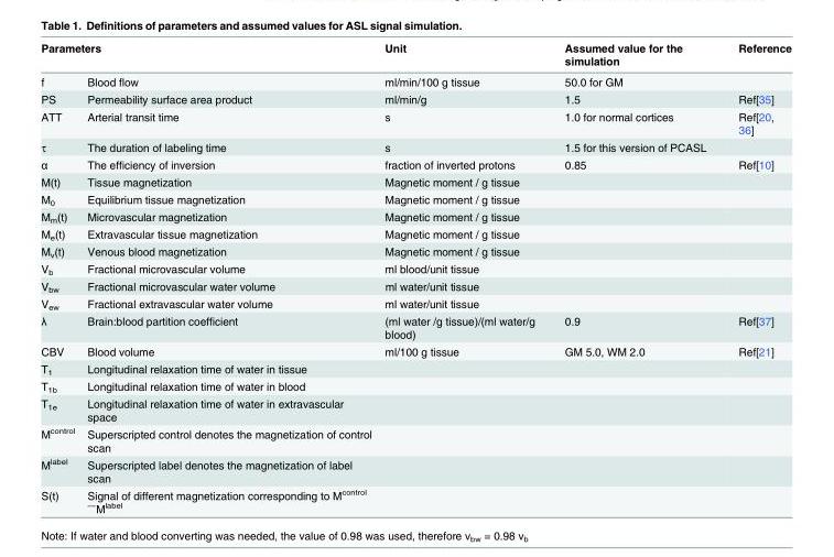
<table><thead><tr><td colspan="2">Parameters</td><td rowspan="2">Unit ml/min/100 g tissue</td><td rowspan="2">Assumed value for the simulation 50.0 for GM</td><td rowspan="2">Reference</td></tr><tr><td>f</td><td>Blood flow</td></tr></thead><tbody><tr><td>PS</td><td>Permeability surface area product</td><td>ml/min/g</td><td>1.5</td><td>Ref[35]</td></tr><tr><td>ATT</td><td>Arterial transit time</td><td>s</td><td>1.0 for normal cortices</td><td>Ref[20, 36]</td></tr><tr><td>τ</td><td>The duration of labeling time</td><td>s</td><td>1.5 for this version of PCASL</td><td></td></tr><tr><td>α</td><td>The efficiency of inversion</td><td>fraction of inverted protons</td><td>0.85</td><td>Ref[10]</td></tr><tr><td>M(t)</td><td>Tissue magnetization</td><td>Magnetic moment / g tissue</td><td></td><td></td></tr><tr><td>M<sub>0</sub></td><td>Equilibrium tissue magnetization</td><td>Magnetic moment / g tissue</td><td></td><td></td></tr><tr><td>M<sub>m</sub>(t)</td><td>Microvascular magnetization</td><td>Magnetic moment / g tissue</td><td></td><td></td></tr><tr><td>M<sub>e</sub>(t)</td><td>Extravascular tissue magnetization</td><td>Magnetic moment / g tissue</td><td></td><td></td></tr><tr><td>M<sub>v</sub>(t)</td><td>Venous blood magnetization</td><td>Magnetic moment / g tissue</td><td></td><td></td></tr><tr><td>V<sub>b</sub></td><td>Fractional microvascular volume</td><td>ml blood/unit tissue</td><td></td><td></td></tr><tr><td>V<sub>bw</sub></td><td>Fractional microvascular water volume</td><td>ml water/unit tissue</td><td></td><td></td></tr><tr><td>V<sub>ew</sub></td><td>Fractional extravascular water volume</td><td>ml water/unit tissue</td><td></td><td></td></tr><tr><td>λ</td><td>Brain:blood partition coefficient</td><td>(ml water /g tissue)/(ml water/g blood)</td><td>0.9</td><td>Ref[37]</td></tr><tr><td>CBV</td><td>Blood volume</td><td>ml/100 g tissue</td><td>GM 5.0, WM 2.0</td><td>Ref[21]</td></tr><tr><td>T<sub>1</sub></td><td>Longitudinal relaxation time of water in tissue</td><td></td><td></td><td></td></tr><tr><td>T<sub>1b</sub></td><td>Longitudinal relaxation time of water in blood</td><td></td><td></td><td></td></tr><tr><td>T<sub>1e</sub></td><td>Longitudinal relaxation time of water in extravascular space</td><td></td><td></td><td></td></tr><tr><td>M<sup>control</sup></td><td>Superscripted control denotes the magnetization of control scan</td><td></td><td></td><td></td></tr><tr><td>M<sup>label</sup></td><td>Superscripted label denotes the magnetization of label scan</td><td></td><td></td><td></td></tr><tr><td>S(t)</td><td>Signal of different magnetization corresponding to M<sup>control —</sup>M<sup>label</sup></td><td></td><td></td><td></td></tr></tbody></table>